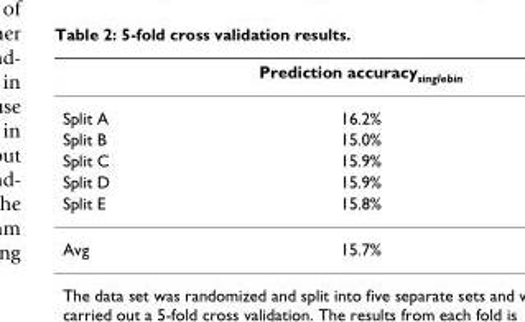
<table><thead><tr><td></td><td>Prediction accuracy<sub>singlebin</sub></td></tr></thead><tbody><tr><td>Split A</td><td>16.2%</td></tr><tr><td>Split B</td><td>15.0%</td></tr><tr><td>Split C</td><td>15.9%</td></tr><tr><td>Split D</td><td>15.9%</td></tr><tr><td>Split E</td><td>15.8%</td></tr><tr><td>Avg</td><td>15.7%</td></tr></tbody></table>